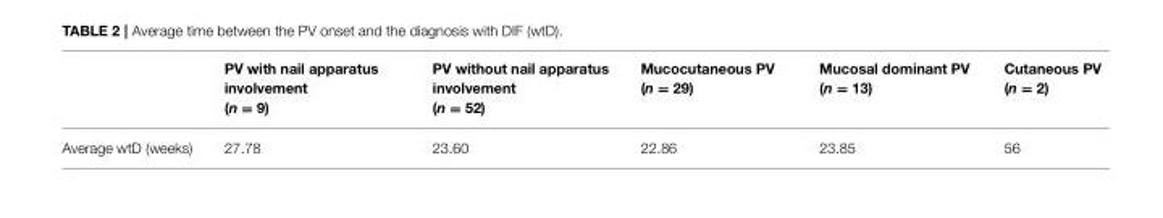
<table><thead><tr><td></td><td>PV with nail apparatus involvement (n = 9)</td><td>PV without nail apparatus involvement (n = 52)</td><td>Mucocutaneous PV (n = 29)</td><td>Mucosal dominant PV (n = 13)</td><td>Cutaneous PV (n = 2)</td></tr></thead><tbody><tr><td>Average wtD (weeks)</td><td>27.78</td><td>23.60</td><td>22.86</td><td>23.85</td><td>56</td></tr></tbody></table>